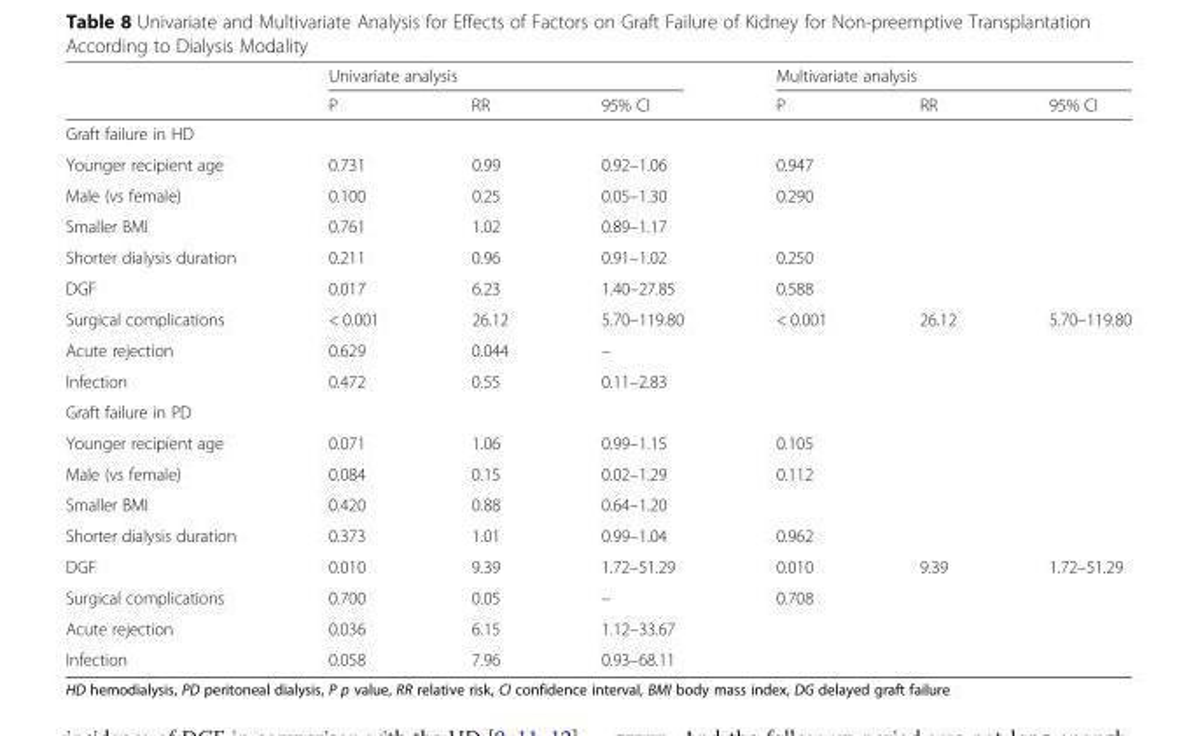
<table><thead><tr><td rowspan="2"></td><td colspan="3">Univariate analysis</td><td colspan="3">Multivariate analysis</td></tr><tr><td>P</td><td>RR</td><td>95% CI</td><td>P</td><td>RR</td><td>95% CI</td></tr></thead><tbody><tr><td colspan="7">Graft failure in HD</td></tr><tr><td>Younger recipient age</td><td>0.731</td><td>0.99</td><td>0.92–1.06</td><td>0.947</td><td></td><td></td></tr><tr><td>Male (vs female)</td><td>0.100</td><td>0.25</td><td>0.05–1.30</td><td>0.290</td><td></td><td></td></tr><tr><td>Smaller BMI</td><td>0.761</td><td>1.02</td><td>0.89–1.17</td><td></td><td></td><td></td></tr><tr><td>Shorter dialysis duration</td><td>0.211</td><td>0.96</td><td>0.91–1.02</td><td>0.250</td><td></td><td></td></tr><tr><td>DGF</td><td>0.017</td><td>6.23</td><td>1.40–27.85</td><td>0.588</td><td></td><td></td></tr><tr><td>Surgical complications</td><td>&lt; 0.001</td><td>26.12</td><td>5.70–119.80</td><td>&lt; 0.001</td><td>26.12</td><td>5.70–119.80</td></tr><tr><td>Acute rejection</td><td>0.629</td><td>0.044</td><td>–</td><td></td><td></td><td></td></tr><tr><td>Infection</td><td>0.472</td><td>0.55</td><td>0.11–2.83</td><td></td><td></td><td></td></tr><tr><td colspan="7">Graft failure in PD</td></tr><tr><td>Younger recipient age</td><td>0.071</td><td>1.06</td><td>0.99–1.15</td><td>0.105</td><td></td><td></td></tr><tr><td>Male (vs female)</td><td>0.084</td><td>0.15</td><td>0.02–1.29</td><td>0.112</td><td></td><td></td></tr><tr><td>Smaller BMI</td><td>0.420</td><td>0.88</td><td>0.64–1.20</td><td></td><td></td><td></td></tr><tr><td>Shorter dialysis duration</td><td>0.373</td><td>1.01</td><td>0.99–1.04</td><td>0.962</td><td></td><td></td></tr><tr><td>DGF</td><td>0.010</td><td>9.39</td><td>1.72–51.29</td><td>0.010</td><td>9.39</td><td>1.72–51.29</td></tr><tr><td>Surgical complications</td><td>0.700</td><td>0.05</td><td>–</td><td>0.708</td><td></td><td></td></tr><tr><td>Acute rejection</td><td>0.036</td><td>6.15</td><td>1.12–33.67</td><td></td><td></td><td></td></tr><tr><td>Infection</td><td>0.058</td><td>7.96</td><td>0.93–68.11</td><td></td><td></td><td></td></tr></tbody></table>